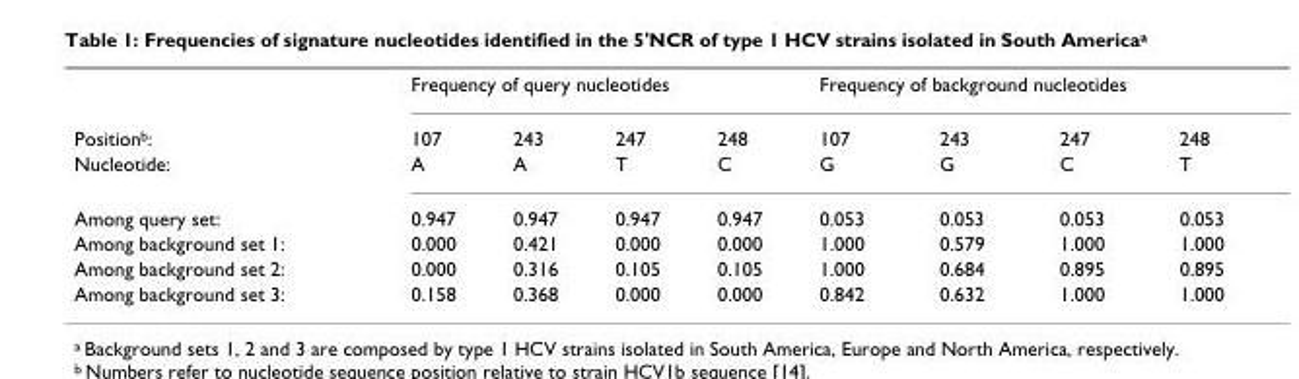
<table><thead><tr><td rowspan="2">Position<sup>b</sup>:</td><td colspan="4">Frequency of query nucleotides</td><td colspan="4">Frequency of background nucleotides</td></tr><tr><td>107</td><td>243</td><td>247</td><td>248</td><td>107</td><td>243</td><td>247</td><td>248</td></tr></thead><tbody><tr><td>Nucleotide:</td><td>A</td><td>A</td><td>T</td><td>C</td><td>G</td><td>G</td><td>C</td><td>T</td></tr><tr><td>Among query set:</td><td>0.947</td><td>0.947</td><td>0.947</td><td>0.947</td><td>0.053</td><td>0.053</td><td>0.053</td><td>0.053</td></tr><tr><td>Among background set 1:</td><td>0.000</td><td>0.421</td><td>0.000</td><td>0.000</td><td>1.000</td><td>0.579</td><td>1.000</td><td>1.000</td></tr><tr><td>Among background set 2:</td><td>0.000</td><td>0.316</td><td>0.105</td><td>0.105</td><td>1.000</td><td>0.684</td><td>0.895</td><td>0.895</td></tr><tr><td>Among background set 3:</td><td>0.158</td><td>0.368</td><td>0.000</td><td>0.000</td><td>0.842</td><td>0.632</td><td>1.000</td><td>1.000</td></tr></tbody></table>